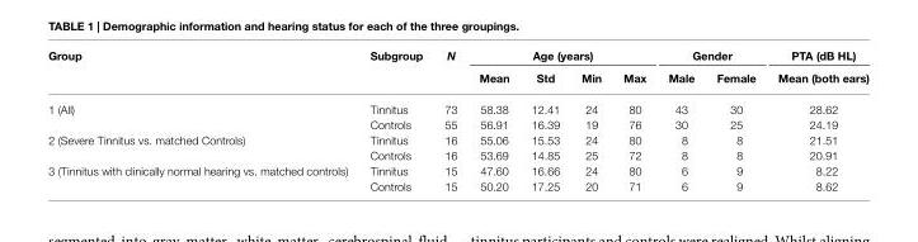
<table><thead><tr><td rowspan="2">Group</td><td rowspan="2">Subgroup</td><td rowspan="2">N</td><td colspan="4">Age (years)</td><td colspan="2">Gender</td><td rowspan="2">PTA (dB HL) Mean (both ears)</td></tr><tr><td>Mean</td><td>Std</td><td>Min</td><td>Max</td><td>Male</td><td>Female</td></tr></thead><tbody><tr><td rowspan="2">1 (All)</td><td>Tinnitus</td><td>73</td><td>58.38</td><td>12.41</td><td>24</td><td>80</td><td>43</td><td>30</td><td>28.62</td></tr><tr><td>Controls</td><td>55</td><td>56.91</td><td>16.39</td><td>19</td><td>76</td><td>30</td><td>25</td><td>24.19</td></tr><tr><td rowspan="2">2 (Severe Tinnitus vs. matched Controls)</td><td>Tinnitus</td><td>16</td><td>55.06</td><td>15.53</td><td>24</td><td>80</td><td>8</td><td>8</td><td>21.51</td></tr><tr><td>Controls</td><td>16</td><td>53.69</td><td>14.85</td><td>25</td><td>72</td><td>8</td><td>8</td><td>20.91</td></tr><tr><td rowspan="2">3 (Tinnitus with clinically normal hearing vs. matched controls)</td><td>Tinnitus</td><td>15</td><td>47.60</td><td>16.66</td><td>24</td><td>80</td><td>6</td><td>9</td><td>8.22</td></tr><tr><td>Controls</td><td>15</td><td>50.20</td><td>17.25</td><td>20</td><td>71</td><td>6</td><td>9</td><td>8.62</td></tr></tbody></table>